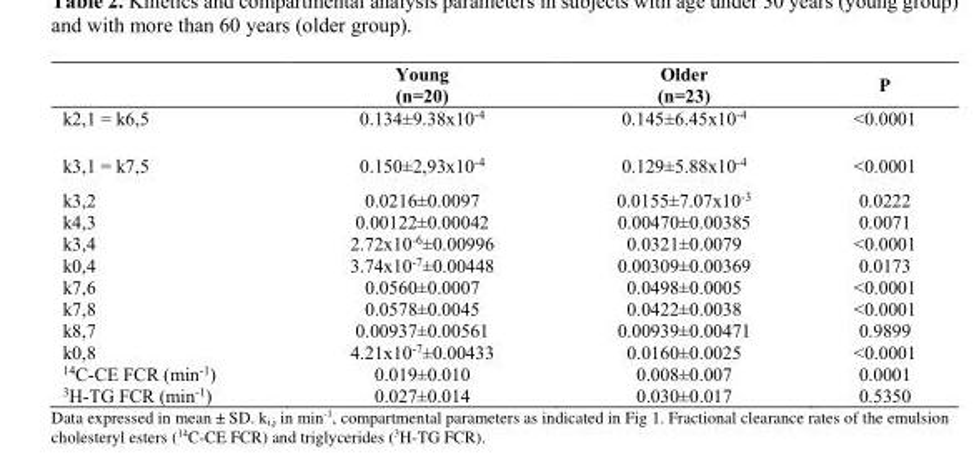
<table><thead><tr><td></td><td>Young (n=20)</td><td>Older (n=23)</td><td>P</td></tr></thead><tbody><tr><td>k2,1 = k6,5</td><td>0.134±9.38x10<sup>-4</sup></td><td>0.145±6.45x10<sup>-4</sup></td><td>&lt;0.0001</td></tr><tr><td>k3,1 = k7,5</td><td>0.150±2,93x10<sup>-4</sup></td><td>0.129±5.88x10<sup>-4</sup></td><td>&lt;0.0001</td></tr><tr><td>k3,2</td><td>0.0216±0.0097</td><td>0.0155±7.07x10<sup>-3</sup></td><td>0.0222</td></tr><tr><td>k4,3</td><td>0.00122±0.00042</td><td>0.00470±0.00385</td><td>0.0071</td></tr><tr><td>k3,4</td><td>2.72x10<sup>-6</sup>±0.00996</td><td>0.0321±0.0079</td><td>&lt;0.0001</td></tr><tr><td>k0,4</td><td>3.74x10<sup>-7</sup>±0.00448</td><td>0.00309±0.00369</td><td>0.0173</td></tr><tr><td>k7,6</td><td>0.0560±0.0007</td><td>0.0498±0.0005</td><td>&lt;0.0001</td></tr><tr><td>k7,8</td><td>0.0578±0.0045</td><td>0.0422±0.0038</td><td>&lt;0.0001</td></tr><tr><td>k8,7</td><td>0.00937±0.00561</td><td>0.00939±0.00471</td><td>0.9899</td></tr><tr><td>k0,8</td><td>4.21x10<sup>-7</sup>±0.00433</td><td>0.0160±0.0025</td><td>&lt;0.0001</td></tr><tr><td><sup>14</sup>C-CE FCR (min<sup>-1</sup>)</td><td>0.019±0.010</td><td>0.008±0.007</td><td>0.0001</td></tr><tr><td><sup>3</sup>H-TG FCR (min<sup>-1</sup>)</td><td>0.027±0.014</td><td>0.030±0.017</td><td>0.5350</td></tr></tbody></table>